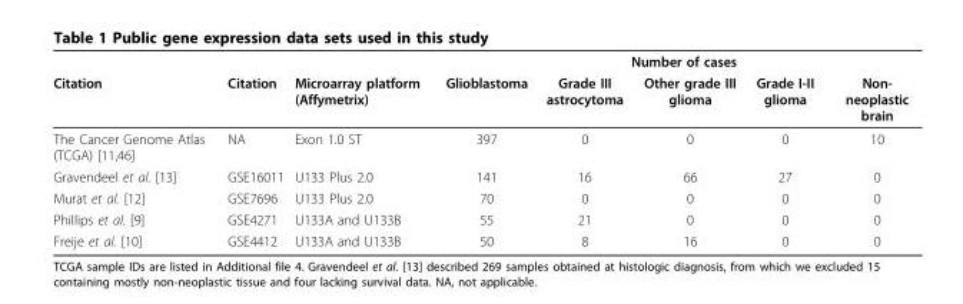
<table><thead><tr><td rowspan="2">Citation</td><td rowspan="2">Citation</td><td rowspan="2">Microarray platform (Affymetrix)</td><td colspan="5">Number of cases</td></tr><tr><td>Glioblastoma</td><td>Grade III astrocytoma</td><td>Other grade III glioma</td><td>Grade I-II glioma</td><td>Non- neoplastic brain</td></tr></thead><tbody><tr><td>The Cancer Genome Atlas (TCGA) [11,46]</td><td>NA</td><td>Exon 1.0 ST</td><td>397</td><td>0</td><td>0</td><td>0</td><td>10</td></tr><tr><td>Gravendeel et al. [13]</td><td>GSE16011</td><td>U133 Plus 2.0</td><td>141</td><td>16</td><td>66</td><td>27</td><td>0</td></tr><tr><td>Murat et al. [12]</td><td>GSE7696</td><td>U133 Plus 2.0</td><td>70</td><td>0</td><td>0</td><td>0</td><td>0</td></tr><tr><td>Phillips et al. [9]</td><td>GSE4271</td><td>U133A and U133B</td><td>55</td><td>21</td><td>0</td><td>0</td><td>0</td></tr><tr><td>Freije et al. [10]</td><td>GSE4412</td><td>U133A and U133B</td><td>50</td><td>8</td><td>16</td><td>0</td><td>0</td></tr></tbody></table>